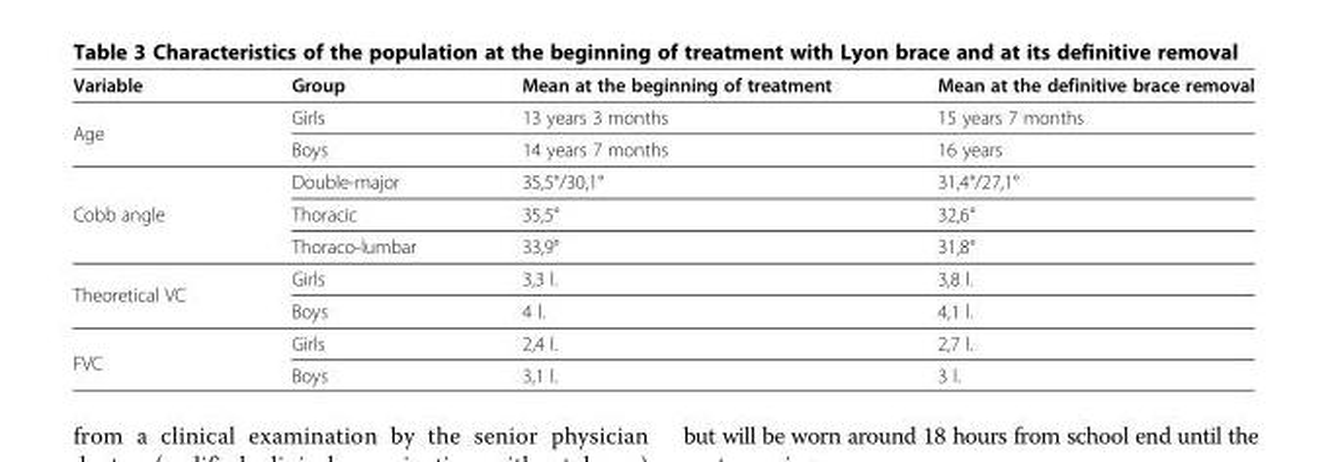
<table><thead><tr><td>Variable</td><td>Group</td><td>Mean at the beginning of treatment</td><td>Mean at the definitive brace removal</td></tr></thead><tbody><tr><td rowspan="2">Age</td><td>Girls</td><td>13 years 3 months</td><td>15 years 7 months</td></tr><tr><td>Boys</td><td>14 years 7 months</td><td>16 years</td></tr><tr><td rowspan="3">Cobb angle</td><td>Double-major</td><td>35,5°/30,1°</td><td>31,4°/27,1°</td></tr><tr><td>Thoracic</td><td>35,5°</td><td>32,6°</td></tr><tr><td>Thoraco-lumbar</td><td>33,9°</td><td>31,8°</td></tr><tr><td rowspan="2">Theoretical VC</td><td>Girls</td><td>3,3 l.</td><td>3,8 l.</td></tr><tr><td>Boys</td><td>4 l.</td><td>4,1 l.</td></tr><tr><td rowspan="2">FVC</td><td>Girls</td><td>2,4 l.</td><td>2,7 l.</td></tr><tr><td>Boys</td><td>3,1 l.</td><td>3 l.</td></tr></tbody></table>